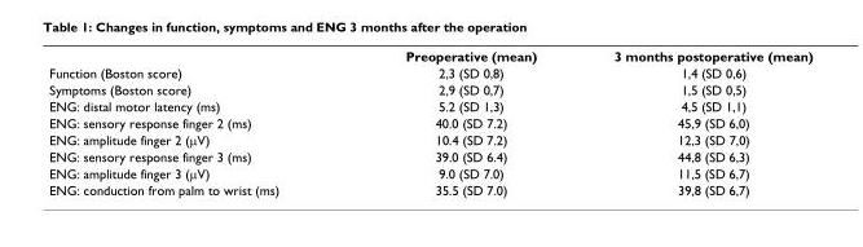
<table><thead><tr><td></td><td>Preoperative (mean)</td><td>3 months postoperative (mean)</td></tr></thead><tbody><tr><td>Function (Boston score)</td><td>2,3 (SD 0,8)</td><td>1,4 (SD 0,6)</td></tr><tr><td>Symptoms (Boston score)</td><td>2,9 (SD 0,7)</td><td>1,5 (SD 0,5)</td></tr><tr><td>ENG: distal motor latency (ms)</td><td>5.2 (SD 1,3)</td><td>4,5 (SD 1,1)</td></tr><tr><td>ENG: sensory response finger 2 (ms)</td><td>40.0 (SD 7.2)</td><td>45,9 (SD 6,0)</td></tr><tr><td>ENG: amplitude finger 2 (μV)</td><td>10.4 (SD 7.2)</td><td>12,3 (SD 7,0)</td></tr><tr><td>ENG: sensory response finger 3 (ms)</td><td>39.0 (SD 6.4)</td><td>44,8 (SD 6,3)</td></tr><tr><td>ENG: amplitude finger 3 (μV)</td><td>9.0 (SD 7.0)</td><td>11,5 (SD 6,7)</td></tr><tr><td>ENG: conduction from palm to wrist (ms)</td><td>35.5 (SD 7.0)</td><td>39,8 (SD 6,7)</td></tr></tbody></table>